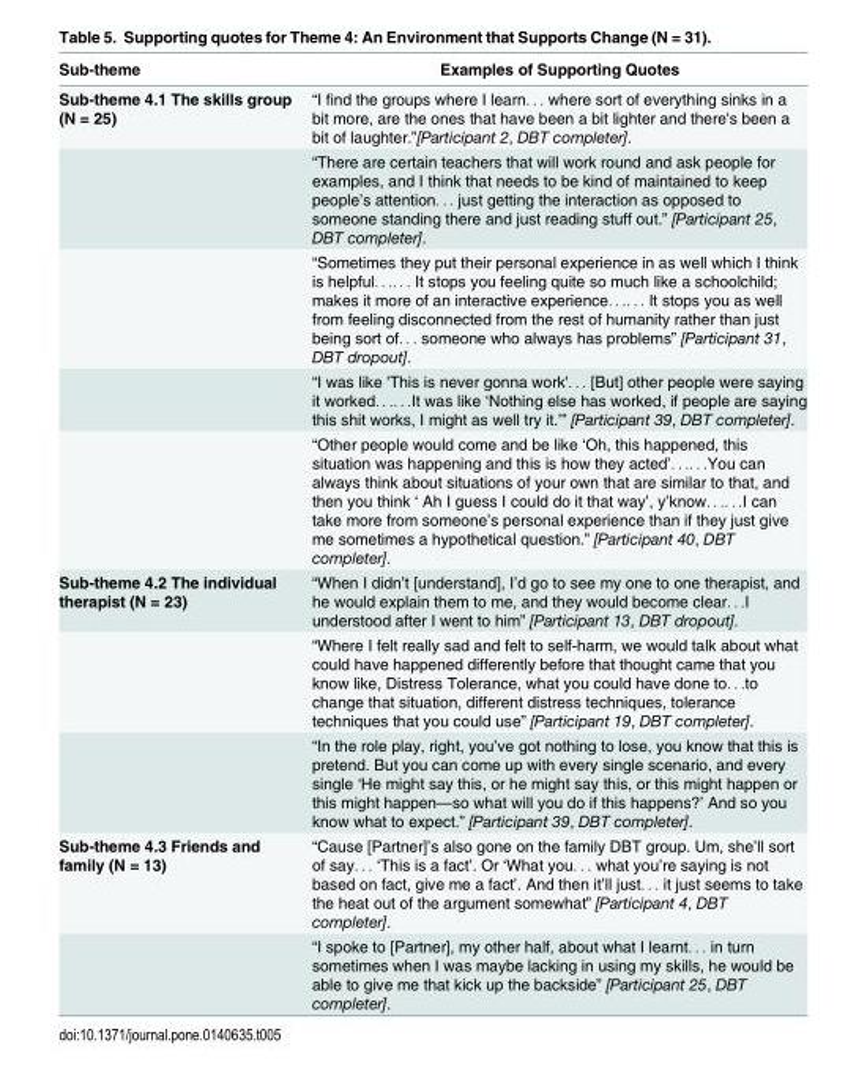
<table><thead><tr><td>Sub-theme</td><td>Examples of Supporting Quotes</td></tr></thead><tbody><tr><td rowspan="5">Sub-theme 4.1 The skills group (N = 25)</td><td>“I find the groups where I learn. . . where sort of everything sinks in a bit more, are the ones that have been a bit lighter and there&#x27;s been a bit of laughter.”[Participant 2, DBT completer].</td></tr><tr><td>“There are certain teachers that will work round and ask people for examples, and I think that needs to be kind of maintained to keep people’s attention. . . just getting the interaction as opposed to someone standing there and just reading stuff out.” [Participant 25, DBT completer].</td></tr><tr><td>“Sometimes they put their personal experience in as well which I think is helpful. . .. . . It stops you feeling quite so much like a schoolchild; makes it more of an interactive experience. . .. . . It stops you as well from feeling disconnected from the rest of humanity rather than just being sort of. . . someone who always has problems” [Participant 31, DBT dropout].</td></tr><tr><td>“I was like &#x27;This is never gonna work&#x27;. . . [But] other people were saying it worked. . .. . .It was like ‘Nothing else has worked, if people are saying this shit works, I might as well try it.’” [Participant 39, DBT completer].</td></tr><tr><td>“Other people would come and be like ‘Oh, this happened, this situation was happening and this is how they acted’. . .. . .You can always think about situations of your own that are similar to that, and then you think ‘ Ah I guess I could do it that way’, y’know. . .. . .I can take more from someone’s personal experience than if they just give me sometimes a hypothetical question.” [Participant 40, DBT completer].</td></tr><tr><td rowspan="3">Sub-theme 4.2 The individual therapist (N = 23)</td><td>“When I didn’t [understand], I’d go to see my one to one therapist, and he would explain them to me, and they would become clear. . .I understood after I went to him” [Participant 13, DBT dropout].</td></tr><tr><td>“Where I felt really sad and felt to self-harm, we would talk about what could have happened differently before that thought came that you know like, Distress Tolerance, what you could have done to. . .to change that situation, different distress techniques, tolerance techniques that you could use” [Participant 19, DBT completer].</td></tr><tr><td>“In the role play, right, you’ve got nothing to lose, you know that this is pretend. But you can come up with every single scenario, and every single ‘He might say this, or he might say this, or this might happen or this might happen—so what will you do if this happens?’ And so you know what to expect.” [Participant 39, DBT completer].</td></tr><tr><td rowspan="2">Sub-theme 4.3 Friends and family (N = 13)</td><td>“Cause [Partner]’s also gone on the family DBT group. Um, she’ll sort of say. . . ‘This is a fact’. Or ‘What you. . . what you’re saying is not based on fact, give me a fact’. And then it’ll just. . . it just seems to take the heat out of the argument somewhat” [Participant 4, DBT completer].</td></tr><tr><td>“I spoke to [Partner], my other half, about what I learnt. . . in turn sometimes when I was maybe lacking in using my skills, he would be able to give me that kick up the backside” [Participant 25, DBT completer].</td></tr></tbody></table>